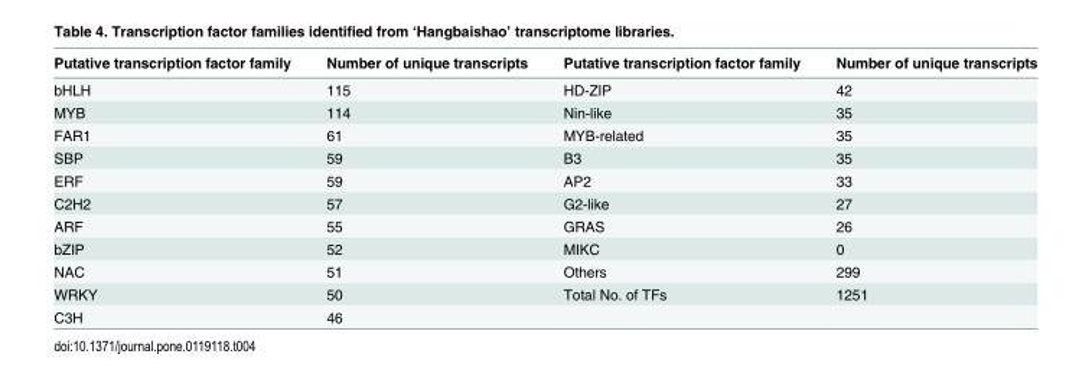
<table><thead><tr><td>Putative transcription factor family</td><td>Number of unique transcripts</td><td>Putative transcription factor family</td><td>Number of unique transcripts</td></tr></thead><tbody><tr><td>bHLH</td><td>115</td><td>HD-ZIP</td><td>42</td></tr><tr><td>MYB</td><td>114</td><td>Nin-like</td><td>35</td></tr><tr><td>FAR1</td><td>61</td><td>MYB-related</td><td>35</td></tr><tr><td>SBP</td><td>59</td><td>B3</td><td>35</td></tr><tr><td>ERF</td><td>59</td><td>AP2</td><td>33</td></tr><tr><td>C2H2</td><td>57</td><td>G2-like</td><td>27</td></tr><tr><td>ARF</td><td>55</td><td>GRAS</td><td>26</td></tr><tr><td>bZIP</td><td>52</td><td>MIKC</td><td>0</td></tr><tr><td>NAC</td><td>51</td><td>Others</td><td>299</td></tr><tr><td>WRKY</td><td>50</td><td>Total No. of TFs</td><td>1251</td></tr><tr><td>C3H</td><td>46</td><td></td><td></td></tr></tbody></table>